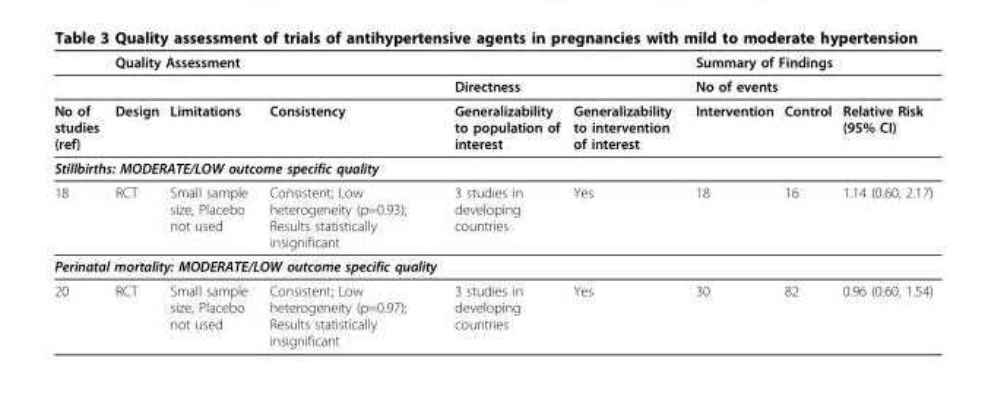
<table><thead><tr><td rowspan="3">No of studies (ref)</td><td colspan="5">Quality Assessment</td><td colspan="3">Summary of Findings</td></tr><tr><td rowspan="2">Design</td><td rowspan="2">Limitations</td><td rowspan="2">Consistency</td><td colspan="2">Directness</td><td colspan="2">No of events</td><td rowspan="2">Relative Risk (95% CI)</td></tr><tr><td>Generalizability to population of interest</td><td>Generalizability to intervention of interest</td><td>Intervention</td><td>Control</td></tr></thead><tbody><tr><td colspan="9">Stillbirths: MODERATE/LOW outcome specific quality</td></tr><tr><td>18</td><td>RCT</td><td>Small sample size, Placebo not used</td><td>Consistent; Low heterogeneity (p=0.93); Results statistically insignificant</td><td>3 studies in developing countries</td><td>Yes</td><td>18</td><td>16</td><td>1.14 (0.60, 2.17)</td></tr><tr><td colspan="9">Perinatal mortality: MODERATE/LOW outcome specific quality</td></tr><tr><td>20</td><td>RCT</td><td>Small sample size, Placebo not used</td><td>Consistent; Low heterogeneity (p=0.97); Results statistically insignificant</td><td>3 studies in developing countries</td><td>Yes</td><td>30</td><td>82</td><td>0.96 (0.60, 1.54)</td></tr></tbody></table>